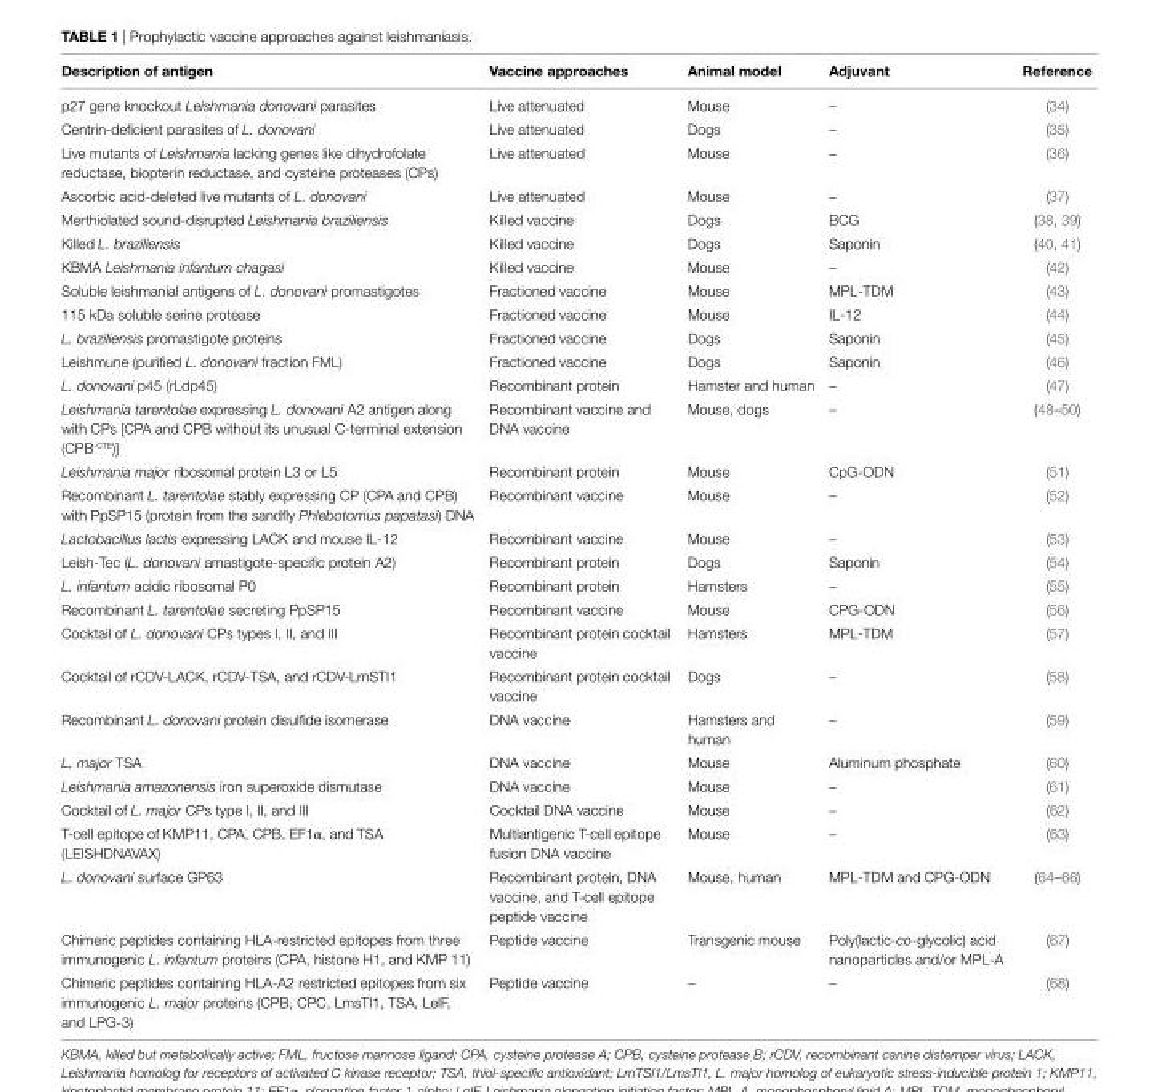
<table><thead><tr><td>Description of antigen</td><td>vaccine approaches</td><td>Animal model</td><td>Adjuvant</td><td>Reference</td></tr></thead><tbody><tr><td>p27 gene knockout Leishmania donovani parasites</td><td>Live attenuated</td><td>Mouse</td><td>–</td><td>(34)</td></tr><tr><td>Centrin-deficient parasites of L. donovani</td><td>Live attenuated</td><td>Dogs</td><td>–</td><td>(35)</td></tr><tr><td>Live mutants of Leishmania lacking genes like dihydrofolate reductase, biopterin reductase, and cysteine proteases (CPs)</td><td>Live attenuated</td><td>Mouse</td><td>–</td><td>(36)</td></tr><tr><td>Ascorbic acid-deleted live mutants of L. donovani</td><td>Live attenuated</td><td>Mouse</td><td>–</td><td>(37)</td></tr><tr><td>Merthiolated sound-disrupted Leishmania braziliensis</td><td>Killed vaccine</td><td>Dogs</td><td>BCG</td><td>(38, 39)</td></tr><tr><td>Killed L. braziliensis</td><td>Killed vaccine</td><td>Dogs</td><td>Saponin</td><td>(40, 41)</td></tr><tr><td>KBMA Leishmania infantum chagasi</td><td>Killed vaccine</td><td>Mouse</td><td>–</td><td>(42)</td></tr><tr><td>Soluble leishmanial antigens of L. donovani promastigotes</td><td>Fractioned vaccine</td><td>Mouse</td><td>MPL-TDM</td><td>(43)</td></tr><tr><td>115 kDa soluble serine protease</td><td>Fractioned vaccine</td><td>Mouse</td><td>IL-12</td><td>(44)</td></tr><tr><td>L. braziliensis promastigote proteins</td><td>Fractioned vaccine</td><td>Dogs</td><td>Saponin</td><td>(45)</td></tr><tr><td>Leishmune (purified L. donovani fraction FML)</td><td>Fractioned vaccine</td><td>Dogs</td><td>Saponin</td><td>(46)</td></tr><tr><td>L. donovani p45 (rLdp45)</td><td>Recombinant protein</td><td>Hamster and human</td><td>–</td><td>(47)</td></tr><tr><td>Leishmania tarentolae expressing L. donovani A2 antigen along with CPs [CPA and CPB without its unusual C-terminal extension (CPB<sup>-CTE</sup>)]</td><td>Recombinant vaccine and DNA vaccine</td><td>Mouse, dogs</td><td>–</td><td>(48–50)</td></tr><tr><td>Leishmania major ribosomal protein L3 or L5</td><td>Recombinant protein</td><td>Mouse</td><td>CpG-ODN</td><td>(51)</td></tr><tr><td>Recombinant L. tarentolae stably expressing CP (CPA and CPB) with PpSP15 (protein from the sandfly Phlebotomus papatasi) DNA</td><td>Recombinant vaccine</td><td>Mouse</td><td>–</td><td>(52)</td></tr><tr><td>Lactobacillus lactis expressing LACK and mouse IL-12</td><td>Recombinant vaccine</td><td>Mouse</td><td>–</td><td>(53)</td></tr><tr><td>Leish-Tec (L. donovani amastigote-specific protein A2)</td><td>Recombinant protein</td><td>Dogs</td><td>Saponin</td><td>(54)</td></tr><tr><td>L. infantum acidic ribosomal P0</td><td>Recombinant protein</td><td>Hamsters</td><td>–</td><td>(55)</td></tr><tr><td>Recombinant L. tarentolae secreting PpSP15</td><td>Recombinant vaccine</td><td>Mouse</td><td>CPG-ODN</td><td>(56)</td></tr><tr><td>Cocktail of L. donovani CPs types I, II, and III</td><td>Recombinant protein cocktail vaccine</td><td>Hamsters</td><td>MPL-TDM</td><td>(57)</td></tr><tr><td>Cocktail of rCDV-LACK, rCDV-TSA, and rCDV-LmSTI1</td><td>Recombinant protein cocktail vaccine</td><td>Dogs</td><td>–</td><td>(58)</td></tr><tr><td>Recombinant L. donovani protein disulfide isomerase</td><td>DNA vaccine</td><td>Hamsters and human</td><td>–</td><td>(59)</td></tr><tr><td>L. major TSA</td><td>DNA vaccine</td><td>Mouse</td><td>Aluminum phosphate</td><td>(60)</td></tr><tr><td>Leishmania amazonensis iron superoxide dismutase</td><td>DNA vaccine</td><td>Mouse</td><td>–</td><td>(61)</td></tr><tr><td>Cocktail of L. major CPs type I, II, and III</td><td>Cocktail DNA vaccine</td><td>Mouse</td><td>–</td><td>(62)</td></tr><tr><td>T-cell epitope of KMP11, CPA, CPB, EF1α, and TSA (LEISHDNAVAX)</td><td>Multiantigenic T-cell epitope fusion DNA vaccine</td><td>Mouse</td><td>–</td><td>(63)</td></tr><tr><td>L. donovani surface GP63</td><td>Recombinant protein, DNA vaccine, and T-cell epitope peptide vaccine</td><td>Mouse, human</td><td>MPL-TDM and CPG-ODN</td><td>(64–66)</td></tr><tr><td>Chimeric peptides containing HLA-restricted epitopes from three immunogenic L. infantum proteins (CPA, histone H1, and KMP 11)</td><td>Peptide vaccine</td><td>Transgenic mouse</td><td>Poly(lactic-co-glycolic) acid nanoparticles and/or MPL-A</td><td>(67)</td></tr><tr><td>Chimeric peptides containing HLA-A2 restricted epitopes from six immunogenic L. major proteins (CPB, CPC, LmsTI1, TSA, LeIF, and LPG-3)</td><td>Peptide vaccine</td><td>–</td><td>–</td><td>(68)</td></tr></tbody></table>